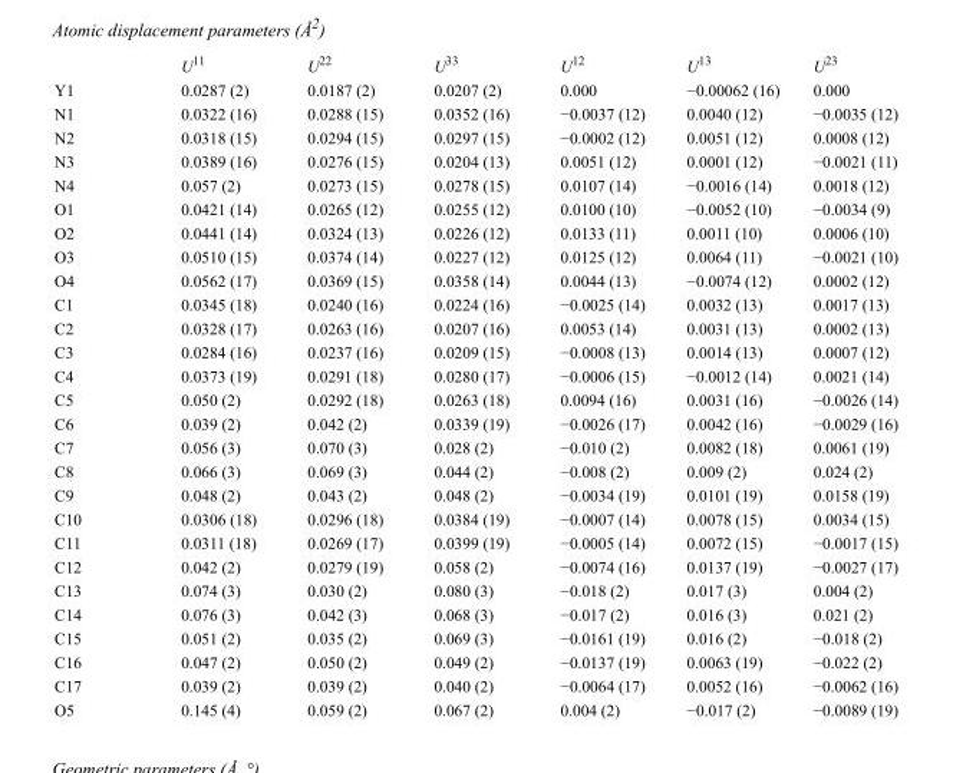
<table><thead><tr><td></td><td>U<sup>11</sup></td><td>U<sup>22</sup></td><td>U<sup>33</sup></td><td>U<sup>12</sup></td><td>U<sup>13</sup></td><td>U<sup>23</sup></td></tr></thead><tbody><tr><td>Y1</td><td>0.0287 (2)</td><td>0.0187 (2)</td><td>0.0207 (2)</td><td>0.000</td><td>−0.00062 (16)</td><td>0.000</td></tr><tr><td>N1</td><td>0.0322 (16)</td><td>0.0288 (15)</td><td>0.0352 (16)</td><td>−0.0037 (12)</td><td>0.0040 (12)</td><td>−0.0035 (12)</td></tr><tr><td>N2</td><td>0.0318 (15)</td><td>0.0294 (15)</td><td>0.0297 (15)</td><td>−0.0002 (12)</td><td>0.0051 (12)</td><td>0.0008 (12)</td></tr><tr><td>N3</td><td>0.0389 (16)</td><td>0.0276 (15)</td><td>0.0204 (13)</td><td>0.0051 (12)</td><td>0.0001 (12)</td><td>−0.0021 (11)</td></tr><tr><td>N4</td><td>0.057 (2)</td><td>0.0273 (15)</td><td>0.0278 (15)</td><td>0.0107 (14)</td><td>−0.0016 (14)</td><td>0.0018 (12)</td></tr><tr><td>O1</td><td>0.0421 (14)</td><td>0.0265 (12)</td><td>0.0255 (12)</td><td>0.0100 (10)</td><td>−0.0052 (10)</td><td>−0.0034 (9)</td></tr><tr><td>O2</td><td>0.0441 (14)</td><td>0.0324 (13)</td><td>0.0226 (12)</td><td>0.0133 (11)</td><td>0.0011 (10)</td><td>0.0006 (10)</td></tr><tr><td>O3</td><td>0.0510 (15)</td><td>0.0374 (14)</td><td>0.0227 (12)</td><td>0.0125 (12)</td><td>0.0064 (11)</td><td>−0.0021 (10)</td></tr><tr><td>O4</td><td>0.0562 (17)</td><td>0.0369 (15)</td><td>0.0358 (14)</td><td>0.0044 (13)</td><td>−0.0074 (12)</td><td>0.0002 (12)</td></tr><tr><td>C1</td><td>0.0345 (18)</td><td>0.0240 (16)</td><td>0.0224 (16)</td><td>−0.0025 (14)</td><td>0.0032 (13)</td><td>0.0017 (13)</td></tr><tr><td>C2</td><td>0.0328 (17)</td><td>0.0263 (16)</td><td>0.0207 (16)</td><td>0.0053 (14)</td><td>0.0031 (13)</td><td>0.0002 (13)</td></tr><tr><td>C3</td><td>0.0284 (16)</td><td>0.0237 (16)</td><td>0.0209 (15)</td><td>−0.0008 (13)</td><td>0.0014 (13)</td><td>0.0007 (12)</td></tr><tr><td>C4</td><td>0.0373 (19)</td><td>0.0291 (18)</td><td>0.0280 (17)</td><td>−0.0006 (15)</td><td>−0.0012 (14)</td><td>0.0021 (14)</td></tr><tr><td>C5</td><td>0.050 (2)</td><td>0.0292 (18)</td><td>0.0263 (18)</td><td>0.0094 (16)</td><td>0.0031 (16)</td><td>−0.0026 (14)</td></tr><tr><td>C6</td><td>0.039 (2)</td><td>0.042 (2)</td><td>0.0339 (19)</td><td>−0.0026 (17)</td><td>0.0042 (16)</td><td>−0.0029 (16)</td></tr><tr><td>C7</td><td>0.056 (3)</td><td>0.070 (3)</td><td>0.028 (2)</td><td>−0.010 (2)</td><td>0.0082 (18)</td><td>0.0061 (19)</td></tr><tr><td>C8</td><td>0.066 (3)</td><td>0.069 (3)</td><td>0.044 (2)</td><td>−0.008 (2)</td><td>0.009 (2)</td><td>0.024 (2)</td></tr><tr><td>C9</td><td>0.048 (2)</td><td>0.043 (2)</td><td>0.048 (2)</td><td>−0.0034 (19)</td><td>0.0101 (19)</td><td>0.0158 (19)</td></tr><tr><td>C10</td><td>0.0306 (18)</td><td>0.0296 (18)</td><td>0.0384 (19)</td><td>−0.0007 (14)</td><td>0.0078 (15)</td><td>0.0034 (15)</td></tr><tr><td>C11</td><td>0.0311 (18)</td><td>0.0269 (17)</td><td>0.0399 (19)</td><td>−0.0005 (14)</td><td>0.0072 (15)</td><td>−0.0017 (15)</td></tr><tr><td>C12</td><td>0.042 (2)</td><td>0.0279 (19)</td><td>0.058 (2)</td><td>−0.0074 (16)</td><td>0.0137 (19)</td><td>−0.0027 (17)</td></tr><tr><td>C13</td><td>0.074 (3)</td><td>0.030 (2)</td><td>0.080 (3)</td><td>−0.018 (2)</td><td>0.017 (3)</td><td>0.004 (2)</td></tr><tr><td>C14</td><td>0.076 (3)</td><td>0.042 (3)</td><td>0.068 (3)</td><td>−0.017 (2)</td><td>0.016 (3)</td><td>0.021 (2)</td></tr><tr><td>C15</td><td>0.051 (2)</td><td>0.035 (2)</td><td>0.069 (3)</td><td>−0.0161 (19)</td><td>0.016 (2)</td><td>−0.018 (2)</td></tr><tr><td>C16</td><td>0.047 (2)</td><td>0.050 (2)</td><td>0.049 (2)</td><td>−0.0137 (19)</td><td>0.0063 (19)</td><td>−0.022 (2)</td></tr><tr><td>C17</td><td>0.039 (2)</td><td>0.039 (2)</td><td>0.040 (2)</td><td>−0.0064 (17)</td><td>0.0052 (16)</td><td>−0.0062 (16)</td></tr><tr><td>O5</td><td>0.145 (4)</td><td>0.059 (2)</td><td>0.067 (2)</td><td>0.004 (2)</td><td>−0.017 (2)</td><td>−0.0089 (19)</td></tr></tbody></table>